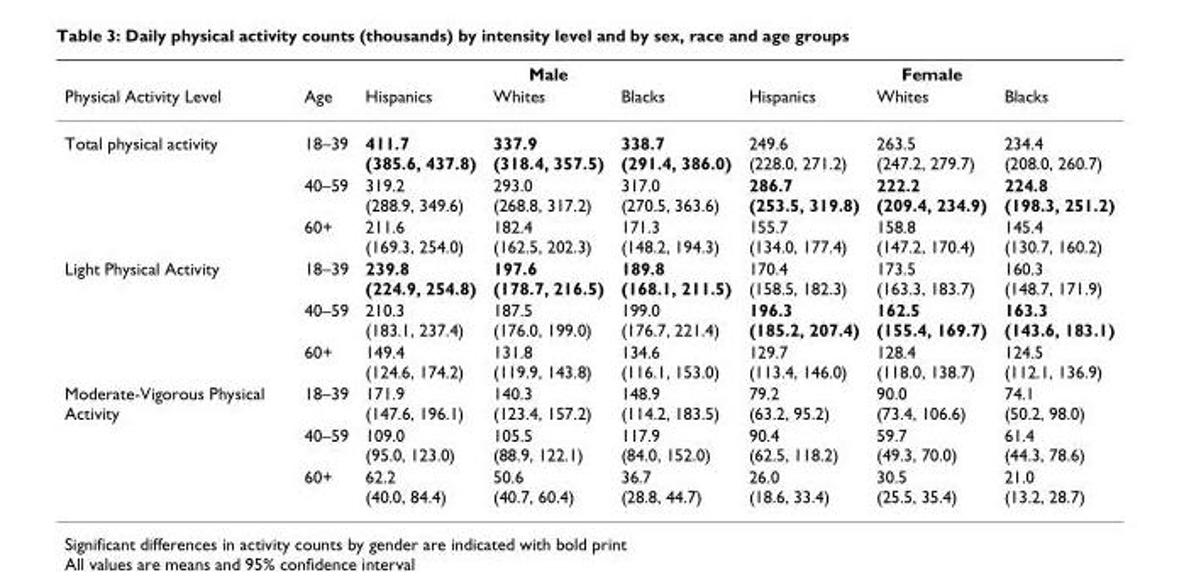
<table><thead><tr><td rowspan="2">Physical Activity Level</td><td rowspan="2">Age</td><td colspan="3">Male</td><td colspan="3">Female</td></tr><tr><td>Hispanics</td><td>Whites</td><td>Blacks</td><td>Hispanics</td><td>Whites</td><td>Blacks</td></tr></thead><tbody><tr><td rowspan="3">Total physical activity</td><td>18–39</td><td>411.7 (385.6, 437.8)</td><td>337.9 (318.4, 357.5)</td><td>338.7 (291.4, 386.0)</td><td>249.6 (228.0, 271.2)</td><td>263.5 (247.2, 279.7)</td><td>234.4 (208.0, 260.7)</td></tr><tr><td>40–59</td><td>319.2 (288.9, 349.6)</td><td>293.0 (268.8, 317.2)</td><td>317.0 (270.5, 363.6)</td><td>286.7 (253.5, 319.8)</td><td>222.2 (209.4, 234.9)</td><td>224.8 (198.3, 251.2)</td></tr><tr><td>60+</td><td>211.6 (169.3, 254.0)</td><td>182.4 (162.5, 202.3)</td><td>171.3 (148.2, 194.3)</td><td>155.7 (134.0, 177.4)</td><td>158.8 (147.2, 170.4)</td><td>145.4 (130.7, 160.2)</td></tr><tr><td rowspan="3">Light Physical Activity</td><td>18–39</td><td>239.8 (224.9, 254.8)</td><td>197.6 (178.7, 216.5)</td><td>189.8 (168.1, 211.5)</td><td>170.4 (158.5, 182.3)</td><td>173.5 (163.3, 183.7)</td><td>160.3 (148.7, 171.9)</td></tr><tr><td>40–59</td><td>210.3 (183.1, 237.4)</td><td>187.5 (176.0, 199.0)</td><td>199.0 (176.7, 221.4)</td><td>196.3 (185.2, 207.4)</td><td>162.5 (155.4, 169.7)</td><td>163.3 (143.6, 183.1)</td></tr><tr><td>60+</td><td>149.4 (124.6, 174.2)</td><td>131.8 (119.9, 143.8)</td><td>134.6 (116.1, 153.0)</td><td>129.7 (113.4, 146.0)</td><td>128.4 (118.0, 138.7)</td><td>124.5 (112.1, 136.9)</td></tr><tr><td rowspan="3">Moderate-Vigorous Physical Activity</td><td>18–39</td><td>171.9 (147.6, 196.1)</td><td>140.3 (123.4, 157.2)</td><td>148.9 (114.2, 183.5)</td><td>79.2 (63.2, 95.2)</td><td>90.0 (73.4, 106.6)</td><td>74.1 (50.2, 98.0)</td></tr><tr><td>40–59</td><td>109.0 (95.0, 123.0)</td><td>105.5 (88.9, 122.1)</td><td>117.9 (84.0, 152.0)</td><td>90.4 (62.5, 118.2)</td><td>59.7 (49.3, 70.0)</td><td>61.4 (44.3, 78.6)</td></tr><tr><td>60+</td><td>62.2 (40.0, 84.4)</td><td>50.6 (40.7, 60.4)</td><td>36.7 (28.8, 44.7)</td><td>26.0 (18.6, 33.4)</td><td>30.5 (25.5, 35.4)</td><td>21.0 (13.2, 28.7)</td></tr></tbody></table>